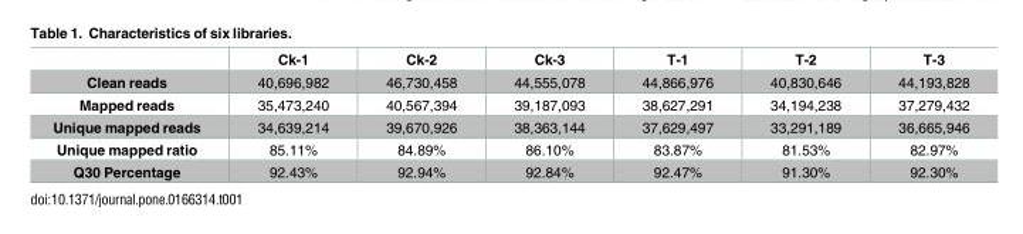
<table><thead><tr><td></td><td>Ck-1</td><td>Ck-2</td><td>Ck-3</td><td>T-1</td><td>T-2</td><td>T-3</td></tr></thead><tbody><tr><td>Clean reads</td><td>40,696,982</td><td>46,730,458</td><td>44,555,078</td><td>44,866,976</td><td>40,830,646</td><td>44,193,828</td></tr><tr><td>Mapped reads</td><td>35,473,240</td><td>40,567,394</td><td>39,187,093</td><td>38,627,291</td><td>34,194,238</td><td>37,279,432</td></tr><tr><td>Unique mapped reads</td><td>34,639,214</td><td>39,670,926</td><td>38,363,144</td><td>37,629,497</td><td>33,291,189</td><td>36,665,946</td></tr><tr><td>Unique mapped ratio</td><td>85.11%</td><td>84.89%</td><td>86.10%</td><td>83.87%</td><td>81.53%</td><td>82.97%</td></tr><tr><td>Q30 Percentage</td><td>92.43%</td><td>92.94%</td><td>92.84%</td><td>92.47%</td><td>91.30%</td><td>92.30%</td></tr></tbody></table>